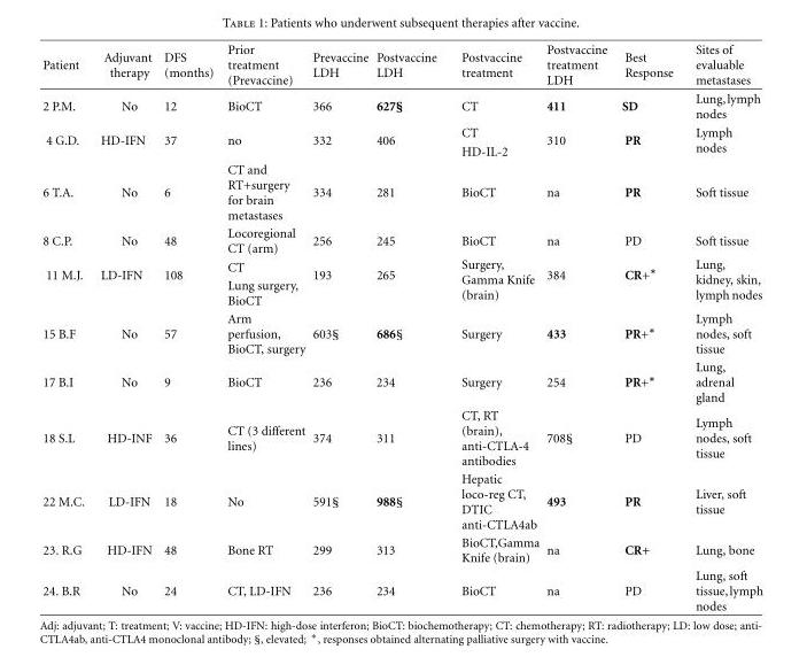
<table><thead><tr><td>Patient</td><td>Adjuvant therapy</td><td>DFS (months)</td><td>Prior treatment (Prevaccine)</td><td>Prevaccine LDH</td><td>Postvaccine LDH</td><td>Postvaccine treatment</td><td>Postvaccine treatment LDH</td><td>Best Response</td><td>Sites of evaluable metastases</td></tr></thead><tbody><tr><td>2 P.M.</td><td>No</td><td>12</td><td>BioCT</td><td>366</td><td>627§</td><td>CT</td><td>411</td><td>SD</td><td>Lung,lymph nodes</td></tr><tr><td rowspan="2">4 G.D.</td><td rowspan="2">HD-IFN</td><td rowspan="2">37</td><td rowspan="2">no</td><td rowspan="2">332</td><td rowspan="2">406</td><td>CT</td><td rowspan="2">310</td><td rowspan="2">PR</td><td rowspan="2">Lymph nodes</td></tr><tr><td>HD-IL-2</td></tr><tr><td>6 T.A.</td><td>No</td><td>6</td><td>CT and RT+surgery for brain metastases</td><td>334</td><td>281</td><td>BioCT</td><td>na</td><td>PR</td><td>Soft tissue</td></tr><tr><td>8 C.P.</td><td>No</td><td>48</td><td>Locoregional CT (arm)</td><td>256</td><td>245</td><td>BioCT</td><td>na</td><td>PD</td><td>Soft tissue</td></tr><tr><td rowspan="2">11 M.J.</td><td rowspan="2">LD-IFN</td><td rowspan="2">108</td><td>CT</td><td rowspan="2">193</td><td rowspan="2">265</td><td rowspan="2">Surgery, Gamma Knife (brain)</td><td rowspan="2">384</td><td rowspan="2">CR+∗</td><td rowspan="2">Lung, kidney, skin, lymph nodes</td></tr><tr><td>Lung surgery, BioCT</td></tr><tr><td>15 B.F</td><td>No</td><td>57</td><td>Arm perfusion, BioCT, surgery</td><td>603§</td><td>686§</td><td>Surgery</td><td>433</td><td>PR+∗</td><td>Lymph nodes, soft tissue</td></tr><tr><td>17 B.I</td><td>No</td><td>9</td><td>BioCT</td><td>236</td><td>234</td><td>Surgery</td><td>254</td><td>PR+∗</td><td>Lung, adrenal gland</td></tr><tr><td>18 S.L</td><td>HD-INF</td><td>36</td><td>CT (3 different lines)</td><td>374</td><td>311</td><td>CT, RT (brain), anti-CTLA-4 antibodies</td><td>708§</td><td>PD</td><td>Lymph nodes, soft tissue</td></tr><tr><td>22 M.C.</td><td>LD-IFN</td><td>18</td><td>No</td><td>591§</td><td>988§</td><td>Hepatic loco-reg CT, DTIC anti-CTLA4ab</td><td>493</td><td>PR</td><td>Liver, soft tissue</td></tr><tr><td>23. R.G</td><td>HD-IFN</td><td>48</td><td>Bone RT</td><td>299</td><td>313</td><td>BioCT,Gamma Knife (brain)</td><td>na</td><td>CR+</td><td>Lung, bone</td></tr><tr><td>24. B.R</td><td>No</td><td>24</td><td>CT, LD-IFN</td><td>236</td><td>234</td><td>BioCT</td><td>na</td><td>PD</td><td>Lung, soft tissue,lymph nodes</td></tr></tbody></table>